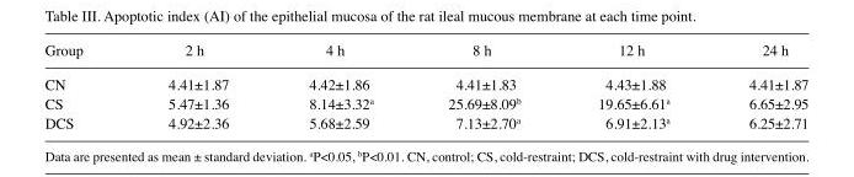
<table><thead><tr><td>Group</td><td>2 h</td><td>4 h</td><td>8 h</td><td>12 h</td><td>24 h</td></tr></thead><tbody><tr><td>CN</td><td>4.41±1.87</td><td>4.42±1.86</td><td>4.41±1.83</td><td>4.43±1.88</td><td>4.41±1.87</td></tr><tr><td>CS</td><td>5.47±1.36</td><td>8.14±3.32<sup>a</sup></td><td>25.69±8.09<sup>b</sup></td><td>19.65±6.61<sup>a</sup></td><td>6.65±2.95</td></tr><tr><td>DCS</td><td>4.92±2.36</td><td>5.68±2.59</td><td>7.13±2.70<sup>a</sup></td><td>6.91±2.13<sup>a</sup></td><td>6.25±2.71</td></tr></tbody></table>